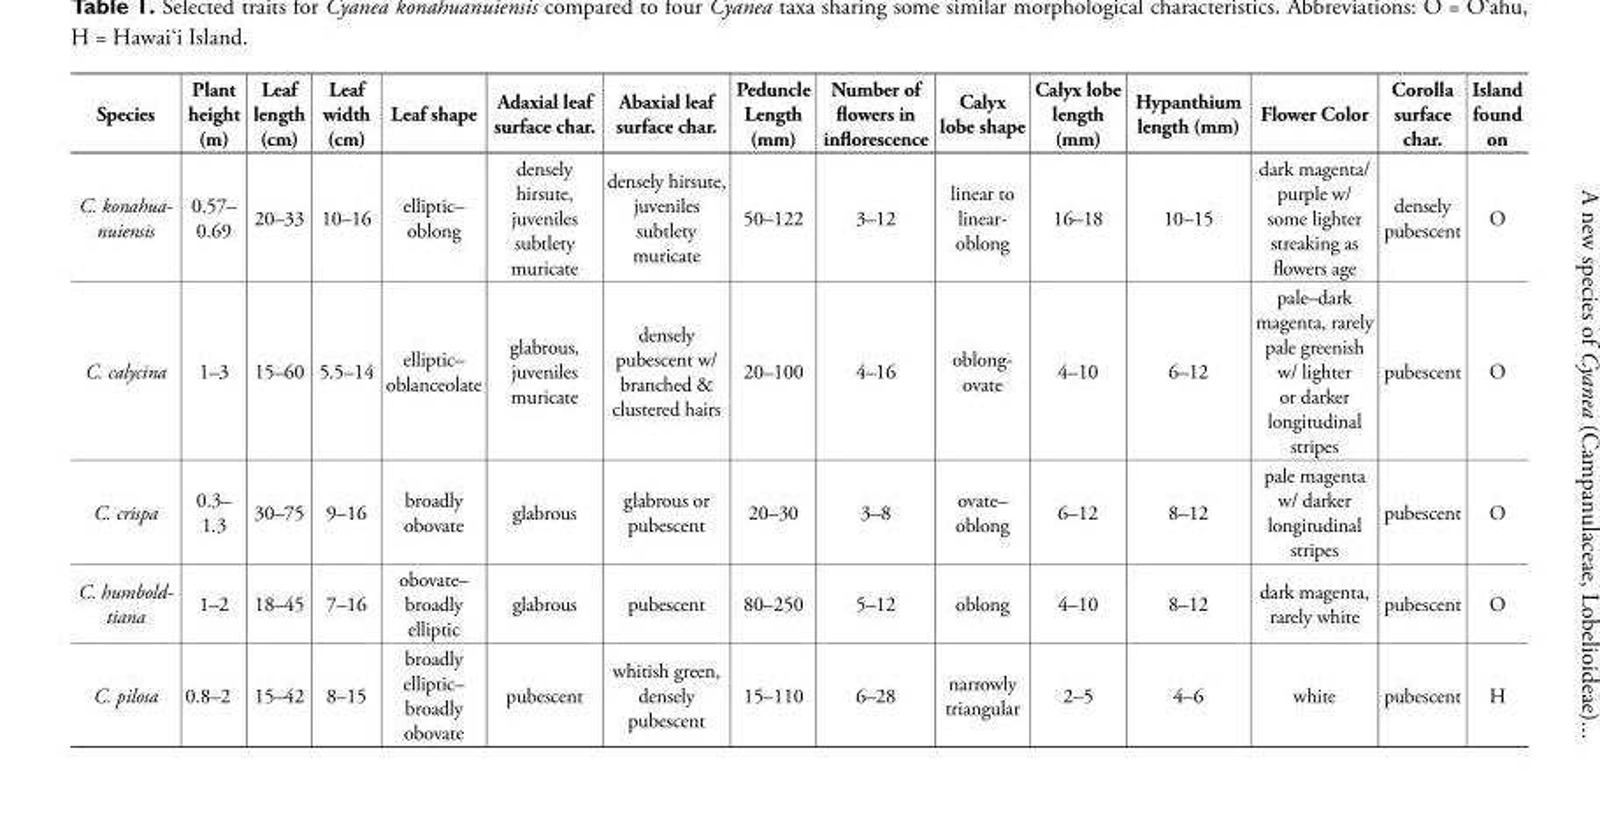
<table><thead><tr><td>Species</td><td>Plant height (m)</td><td>Leaf length (cm)</td><td>Leaf width (cm)</td><td>Leaf shape</td><td>Adaxial leaf surface char.</td><td>Abaxial leaf surface char.</td><td>Peduncle Length (mm)</td><td>Number of fl owers in infl orescence</td><td>Calyx lobe shape</td><td>Calyx lobe length (mm)</td><td>Hypanthium length (mm)</td><td>Flower Color</td><td>Corolla surface char.</td><td>Island found on</td></tr></thead><tbody><tr><td>C. konahua- nuiensis</td><td>0.57– 0.69</td><td>20–33</td><td>10–16</td><td>elliptic– oblong</td><td>densely hirsute, juveniles subtlety muricate</td><td>densely hirsute, juveniles subtlety muricate</td><td>50–122</td><td>3–12</td><td>linear to linear- oblong</td><td>16–18</td><td>10–15</td><td>dark magenta/ purple w/ some lighter streaking as fl owers age</td><td>densely pubescent</td><td>O</td></tr><tr><td>C. calycina</td><td>1–3</td><td>15–60</td><td>5.5–14</td><td>elliptic– oblanceolate</td><td>glabrous, juveniles muricate</td><td>densely pubescent w/ branched &amp; clustered hairs</td><td>20–100</td><td>4–16</td><td>oblong- ovate</td><td>4–10</td><td>6–12</td><td>pale–dark magenta, rarely pale greenish w/ lighter or darker longitudinal stripes</td><td>pubescent</td><td>O</td></tr><tr><td>C. crispa</td><td>0.3– 1.3</td><td>30–75</td><td>9–16</td><td>broadly obovate</td><td>glabrous</td><td>glabrous or pubescent</td><td>20–30</td><td>3–8</td><td>ovate– oblong</td><td>6–12</td><td>8–12</td><td>pale magenta w/ darker longitudinal stripes</td><td>pubescent</td><td>O</td></tr><tr><td>C. humbold- tiana</td><td>1–2</td><td>18–45</td><td>7–16</td><td>obovate– broadly elliptic</td><td>glabrous</td><td>pubescent</td><td>80–250</td><td>5–12</td><td>oblong</td><td>4–10</td><td>8–12</td><td>dark magenta, rarely white</td><td>pubescent</td><td>O</td></tr><tr><td>C. pilosa</td><td>0.8–2</td><td>15–42</td><td>8–15</td><td>broadly elliptic– broadly obovate</td><td>pubescent</td><td>whitish green, densely pubescent</td><td>15–110</td><td>6–28</td><td>narrowly triangular</td><td>2–5</td><td>4–6</td><td>white</td><td>pubescent</td><td>H</td></tr></tbody></table>